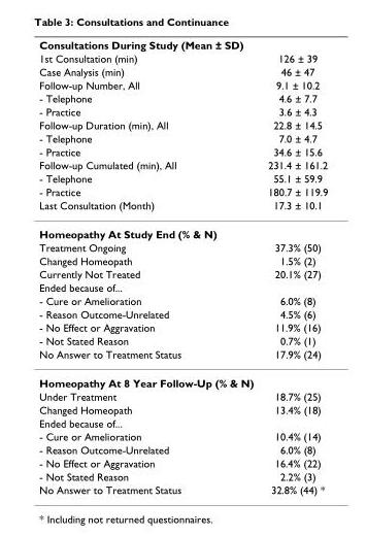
<table><thead><tr><td colspan="2">Consultations During Study (Mean ± SD)</td></tr><tr><td rowspan="12">1st Consultation (min) Case Analysis (min) Follow-up Number, All - Telephone - Practice Follow-up Duration (min), All - Telephone - Practice Follow-up Cumulated (min), All - Telephone - Practice Last Consultation (Month)</td><td rowspan="12">126 ± 39 46 ± 47 9.1 ± 10.2 4.6 ± 7.7 3.6 ± 4.3 22.8 ± 14.5 7.0 ± 4.7 34.6 ± 15.6 231.4 ± 161.2 55.1 ± 59.9 180.7 ± 119.9 17.3 ± 10.1</td></tr><tr></tr><tr></tr><tr></tr><tr></tr><tr></tr><tr></tr><tr></tr><tr></tr><tr></tr><tr></tr><tr></tr></thead><tbody><tr><td colspan="2">Homeopathy At Study End (% &amp; N)</td></tr><tr><td>Treatment Ongoing</td><td>37.3% (50)</td></tr><tr><td>Changed Homeopath</td><td>1.5% (2)</td></tr><tr><td>Currently Not Treated</td><td>20.1% (27)</td></tr><tr><td colspan="2">Ended because of...</td></tr><tr><td>- Cure or Amelioration</td><td>6.0% (8)</td></tr><tr><td>- Reason Outcome-Unrelated</td><td>4.5% (6)</td></tr><tr><td>- No Effect or Aggravation</td><td>11.9% (16)</td></tr><tr><td>- Not Stated Reason</td><td>0.7% (1)</td></tr><tr><td>No Answer to Treatment Status</td><td>17.9% (24)</td></tr><tr><td colspan="2">Homeopathy At 8 Year Follow-Up (% &amp; N)</td></tr><tr><td>Under Treatment</td><td>18.7% (25)</td></tr><tr><td>Changed Homeopath</td><td>13.4% (18)</td></tr><tr><td colspan="2">Ended because of...</td></tr><tr><td>- Cure or Amelioration</td><td>10.4% (14)</td></tr><tr><td>- Reason Outcome-Unrelated</td><td>6.0% (8)</td></tr><tr><td>- No Effect or Aggravation</td><td>16.4% (22)</td></tr><tr><td>- Not Stated Reason</td><td>2.2% (3)</td></tr><tr><td>No Answer to Treatment Status</td><td>32.8% (44) *</td></tr></tbody></table>